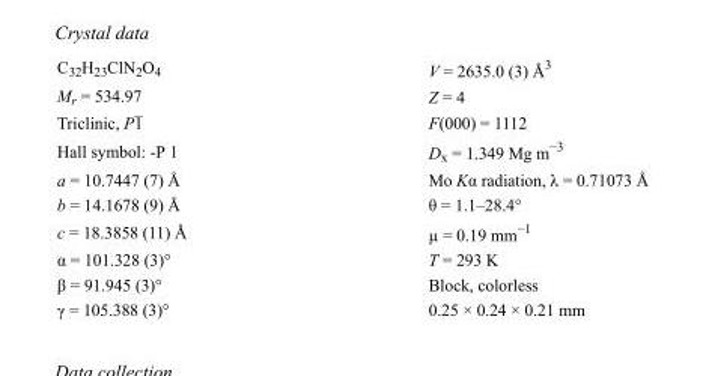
<table><tbody><tr><td>C<sub>32</sub>H<sub>23</sub>ClN<sub>2</sub>O<sub>4</sub></td><td>V = 2635.0 (3) Å<sup>3</sup></td></tr><tr><td>M<sub>r</sub> = 534.97</td><td>Z = 4</td></tr><tr><td>Triclinic, P1</td><td>F(000) = 1112</td></tr><tr><td>Hall symbol: -P 1</td><td>D<sub>x</sub> = 1.349 Mg m<sup>−3</sup></td></tr><tr><td>a = 10.7447 (7) Å</td><td>Mo Kα radiation, λ = 0.71073 Å</td></tr><tr><td>b = 14.1678 (9) Å</td><td>θ = 1.1–28.4°</td></tr><tr><td>c = 18.3858 (11) Å</td><td>µ = 0.19 mm<sup>−1</sup></td></tr><tr><td>α = 101.328 (3)°</td><td>T = 293 K</td></tr><tr><td>β = 91.945 (3)°</td><td>Block, colorless</td></tr><tr><td>γ = 105.388 (3)°</td><td>0.25 × 0.24 × 0.21 mm</td></tr></tbody></table>